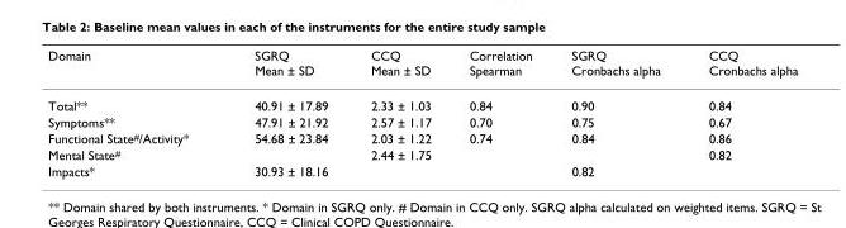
<table><thead><tr><td>Domain</td><td>SGRQ Mean ± SD</td><td>CCQ Mean ± SD</td><td>Correlation Spearman</td><td>SGRQ Cronbachs alpha</td><td>CCQ Cronbachs alpha</td></tr></thead><tbody><tr><td>Total**</td><td>40.91 ± 17.89</td><td>2.33 ± 1.03</td><td>0.84</td><td>0.90</td><td>0.84</td></tr><tr><td>Symptoms**</td><td>47.91 ± 21.92</td><td>2.57 ± 1.17</td><td>0.70</td><td>0.75</td><td>0.67</td></tr><tr><td>Functional State<sup>#</sup>/Activity*</td><td>54.68 ± 23.84</td><td>2.03 ± 1.22</td><td>0.74</td><td>0.84</td><td>0.86</td></tr><tr><td>Mental State<sup>#</sup></td><td></td><td>2.44 ± 1.75</td><td></td><td></td><td>0.82</td></tr><tr><td>Impacts*</td><td>30.93 ± 18.16</td><td></td><td></td><td>0.82</td><td></td></tr></tbody></table>